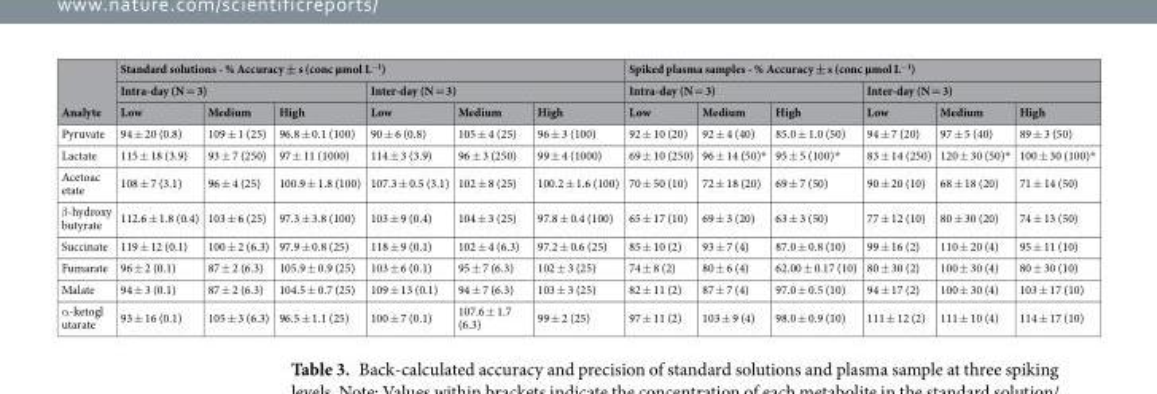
<table><thead><tr><td rowspan="3">Analyte</td><td colspan="6">Standard solutions - % Accuracy ± s (conc µmol L<sup>−1</sup>)</td><td colspan="6">Spiked plasma samples - % Accuracy ± s (conc µmol L<sup>−1</sup>)</td></tr><tr><td colspan="3">Intra-day (N = 3)</td><td colspan="3">Inter-day (N = 3)</td><td colspan="3">Intra-day (N = 3)</td><td colspan="3">Inter-day (N = 3)</td></tr><tr><td>Low</td><td>Medium</td><td>High</td><td>Low</td><td>Medium</td><td>High</td><td>Low</td><td>Medium</td><td>High</td><td>Low</td><td>Medium</td><td>High</td></tr></thead><tbody><tr><td>Pyruvate</td><td>94 ± 20 (0.8)</td><td>109 ± 1 (25)</td><td>96.8 ± 0.1 (100)</td><td>90 ± 6 (0.8)</td><td>105 ± 4 (25)</td><td>96 ± 3 (100)</td><td>92 ± 10 (20)</td><td>92 ± 4 (40)</td><td>85.0 ± 1.0 (50)</td><td>94 ± 7 (20)</td><td>97 ± 5 (40)</td><td>89 ± 3 (50)</td></tr><tr><td>Lactate</td><td>115 ± 18 (3.9)</td><td>93 ± 7 (250)</td><td>97 ± 11 (1000)</td><td>114 ± 3 (3.9)</td><td>96 ± 3 (250)</td><td>99 ± 4 (1000)</td><td>69 ± 10 (250)</td><td>96 ± 14 (50)*</td><td>95 ± 5 (100)*</td><td>83 ± 14 (250)</td><td>120 ± 30 (50)*</td><td>100 ± 30 (100)*</td></tr><tr><td>Acetoac etate</td><td>108 ± 7 (3.1)</td><td>96 ± 4 (25)</td><td>100.9 ± 1.8 (100)</td><td>107.3 ± 0.5 (3.1)</td><td>102 ± 8 (25)</td><td>100.2 ± 1.6 (100)</td><td>70 ± 50 (10)</td><td>72 ± 18 (20)</td><td>69 ± 7 (50)</td><td>90 ± 20 (10)</td><td>68 ± 18 (20)</td><td>71 ± 14 (50)</td></tr><tr><td>β-hydroxy butyrate</td><td>112.6 ± 1.8 (0.4)</td><td>103 ± 6 (25)</td><td>97.3 ± 3.8 (100)</td><td>103 ± 9 (0.4)</td><td>104 ± 3 (25)</td><td>97.8 ± 0.4 (100)</td><td>65 ± 17 (10)</td><td>69 ± 3 (20)</td><td>63 ± 3 (50)</td><td>77 ± 12 (10)</td><td>80 ± 30 (20)</td><td>74 ± 13 (50)</td></tr><tr><td>Succinate</td><td>119 ± 12 (0.1)</td><td>100 ± 2 (6.3)</td><td>97.9 ± 0.8 (25)</td><td>118 ± 9 (0.1)</td><td>102 ± 4 (6.3)</td><td>97.2 ± 0.6 (25)</td><td>85 ± 10 (2)</td><td>93 ± 7 (4)</td><td>87.0 ± 0.8 (10)</td><td>99 ± 16 (2)</td><td>110 ± 20 (4)</td><td>95 ± 11 (10)</td></tr><tr><td>Fumarate</td><td>96 ± 2 (0.1)</td><td>87 ± 2 (6.3)</td><td>105.9 ± 0.9 (25)</td><td>103 ± 6 (0.1)</td><td>95 ± 7 (6.3)</td><td>102 ± 3 (25)</td><td>74 ± 8 (2)</td><td>80 ± 6 (4)</td><td>62.00 ± 0.17 (10)</td><td>80 ± 30 (2)</td><td>100 ± 30 (4)</td><td>80 ± 30 (10)</td></tr><tr><td>Malate</td><td>94 ± 3 (0.1)</td><td>87 ± 2 (6.3)</td><td>104.5 ± 0.7 (25)</td><td>109 ± 13 (0.1)</td><td>94 ± 7 (6.3)</td><td>103 ± 3 (25)</td><td>82 ± 11 (2)</td><td>87 ± 7 (4)</td><td>97.0 ± 0.5 (10)</td><td>94 ± 17 (2)</td><td>100 ± 30 (4)</td><td>103 ± 17 (10)</td></tr><tr><td>α-ketogl utarate</td><td>93 ± 16 (0.1)</td><td>105 ± 3 (6.3)</td><td>96.5 ± 1.1 (25)</td><td>100 ± 7 (0.1)</td><td>107.6 ± 1.7 (6.3)</td><td>99 ± 2 (25)</td><td>97 ± 11 (2)</td><td>103 ± 9 (4)</td><td>98.0 ± 0.9 (10)</td><td>111 ± 12 (2)</td><td>111 ± 10 (4)</td><td>114 ± 17 (10)</td></tr></tbody></table>